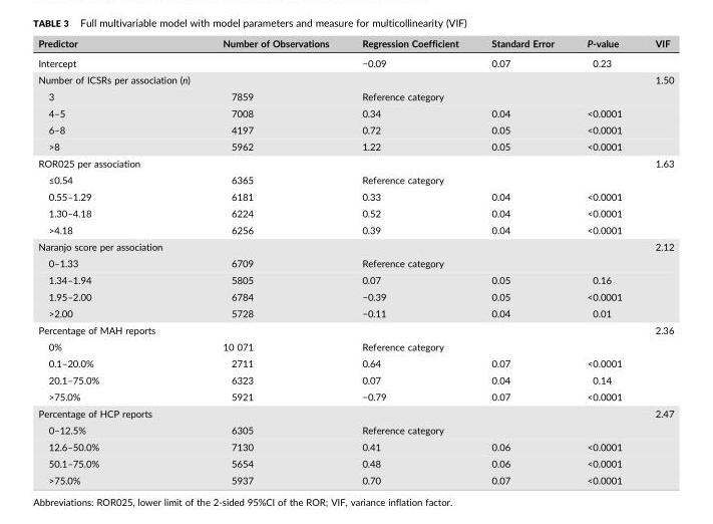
<table><thead><tr><td>Predictor</td><td>Number of Observations</td><td>Regression Coefficient</td><td>Standard Error</td><td>P‐value</td><td>VIF</td></tr></thead><tbody><tr><td>Intercept</td><td></td><td>−0.09</td><td>0.07</td><td>0.23</td><td></td></tr><tr><td>Number of ICSRs per association (n)</td><td></td><td></td><td></td><td></td><td>1.50</td></tr><tr><td>3</td><td>7859</td><td colspan="4">Reference category</td></tr><tr><td>4–5</td><td>7008</td><td>0.34</td><td>0.04</td><td>&lt;0.0001</td><td></td></tr><tr><td>6–8</td><td>4197</td><td>0.72</td><td>0.05</td><td>&lt;0.0001</td><td></td></tr><tr><td>&gt;8</td><td>5962</td><td>1.22</td><td>0.05</td><td>&lt;0.0001</td><td></td></tr><tr><td>ROR025 per association</td><td></td><td></td><td></td><td></td><td>1.63</td></tr><tr><td>≤0.54</td><td>6365</td><td colspan="4">Reference category</td></tr><tr><td>0.55–1.29</td><td>6181</td><td>0.33</td><td>0.04</td><td>&lt;0.0001</td><td></td></tr><tr><td>1.30–4.18</td><td>6224</td><td>0.52</td><td>0.04</td><td>&lt;0.0001</td><td></td></tr><tr><td>&gt;4.18</td><td>6256</td><td>0.39</td><td>0.04</td><td>&lt;0.0001</td><td></td></tr><tr><td>Naranjo score per association</td><td></td><td></td><td></td><td></td><td>2.12</td></tr><tr><td>0–1.33</td><td>6709</td><td colspan="4">Reference category</td></tr><tr><td>1.34–1.94</td><td>5805</td><td>0.07</td><td>0.05</td><td>0.16</td><td></td></tr><tr><td>1.95–2.00</td><td>6784</td><td>−0.39</td><td>0.05</td><td>&lt;0.0001</td><td></td></tr><tr><td>&gt;2.00</td><td>5728</td><td>−0.11</td><td>0.04</td><td>0.01</td><td></td></tr><tr><td>Percentage of MAH reports</td><td></td><td></td><td></td><td></td><td>2.36</td></tr><tr><td>0%</td><td>10 071</td><td colspan="4">Reference category</td></tr><tr><td>0.1–20.0%</td><td>2711</td><td>0.64</td><td>0.07</td><td>&lt;0.0001</td><td></td></tr><tr><td>20.1–75.0%</td><td>6323</td><td>0.07</td><td>0.04</td><td>0.14</td><td></td></tr><tr><td>&gt;75.0%</td><td>5921</td><td>−0.79</td><td>0.07</td><td>&lt;0.0001</td><td></td></tr><tr><td>Percentage of HCP reports</td><td></td><td></td><td></td><td></td><td>2.47</td></tr><tr><td>0–12.5%</td><td>6305</td><td colspan="4">Reference category</td></tr><tr><td>12.6–50.0%</td><td>7130</td><td>0.41</td><td>0.06</td><td>&lt;0.0001</td><td></td></tr><tr><td>50.1–75.0%</td><td>5654</td><td>0.48</td><td>0.06</td><td>&lt;0.0001</td><td></td></tr><tr><td>&gt;75.0%</td><td>5937</td><td>0.70</td><td>0.07</td><td>&lt;0.0001</td><td></td></tr></tbody></table>